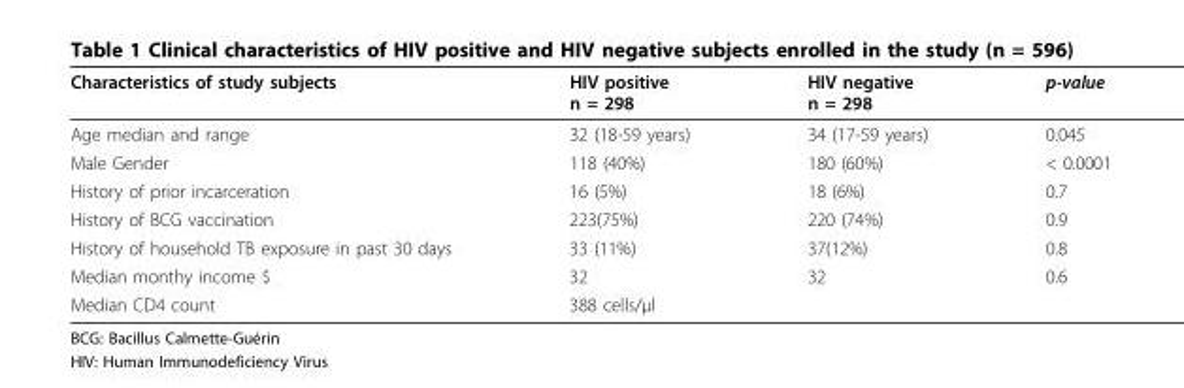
<table><thead><tr><td>Characteristics of study subjects</td><td>HIV positive n = 298</td><td>HIV negative n = 298</td><td>p-value</td></tr></thead><tbody><tr><td>Age median and range</td><td>32 (18-59 years)</td><td>34 (17-59 years)</td><td>0.045</td></tr><tr><td>Male Gender</td><td>118 (40%)</td><td>180 (60%)</td><td>&lt; 0.0001</td></tr><tr><td>History of prior incarceration</td><td>16 (5%)</td><td>18 (6%)</td><td>0.7</td></tr><tr><td>History of BCG vaccination</td><td>223(75%)</td><td>220 (74%)</td><td>0.9</td></tr><tr><td>History of household TB exposure in past 30 days</td><td>33 (11%)</td><td>37(12%)</td><td>0.8</td></tr><tr><td>Median monthy income $</td><td>32</td><td>32</td><td>0.6</td></tr><tr><td>Median CD4 count</td><td>388 cells/μl</td><td></td><td></td></tr></tbody></table>